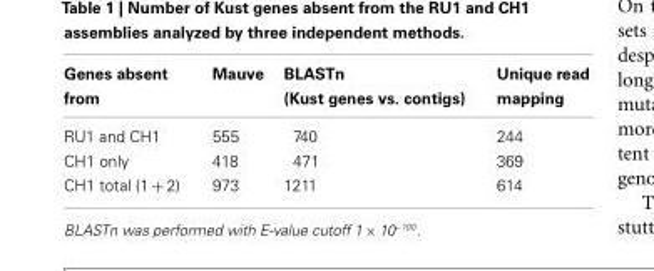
<table><thead><tr><td>Genes absent from</td><td>Mauve</td><td>BLASTn (Kust genes vs. contigs)</td><td>Unique read mapping</td></tr></thead><tbody><tr><td>RU1 and CH1</td><td>555</td><td>740</td><td>244</td></tr><tr><td>CH1 only</td><td>418</td><td>471</td><td>369</td></tr><tr><td>CH1 total (1 + 2)</td><td>973</td><td>1211</td><td>614</td></tr></tbody></table>